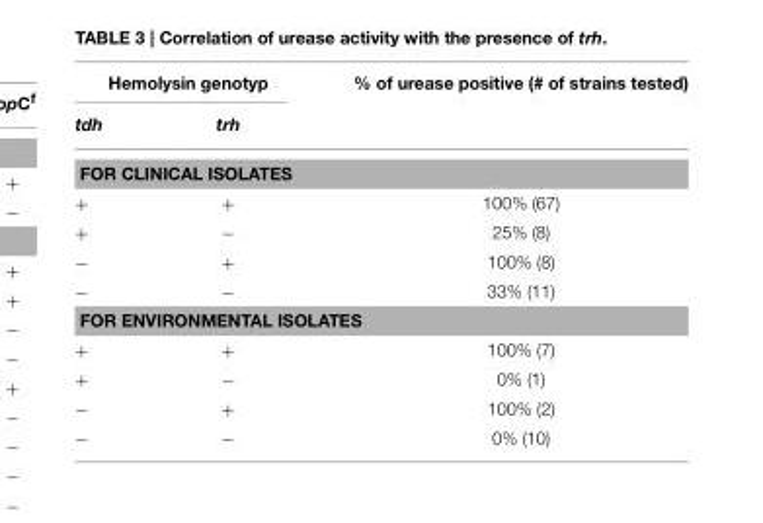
<table><thead><tr><td colspan="2">Hemolysin genotyp</td><td rowspan="2">% of urease positive (# of strains tested)</td></tr><tr><td>tdh</td><td>trh</td></tr></thead><tbody><tr><td colspan="3">FOR CLINICAL ISOLATES</td></tr><tr><td>+</td><td>+</td><td>100% (67)</td></tr><tr><td>+</td><td>−</td><td>25% (8)</td></tr><tr><td>−</td><td>+</td><td>100% (8)</td></tr><tr><td>−</td><td>−</td><td>33% (11)</td></tr><tr><td colspan="3">FOR ENVIRONMENTAL ISOLATES</td></tr><tr><td>+</td><td>+</td><td>100% (7)</td></tr><tr><td>+</td><td>−</td><td>0% (1)</td></tr><tr><td>−</td><td>+</td><td>100% (2)</td></tr><tr><td>−</td><td>−</td><td>0% (10)</td></tr></tbody></table>